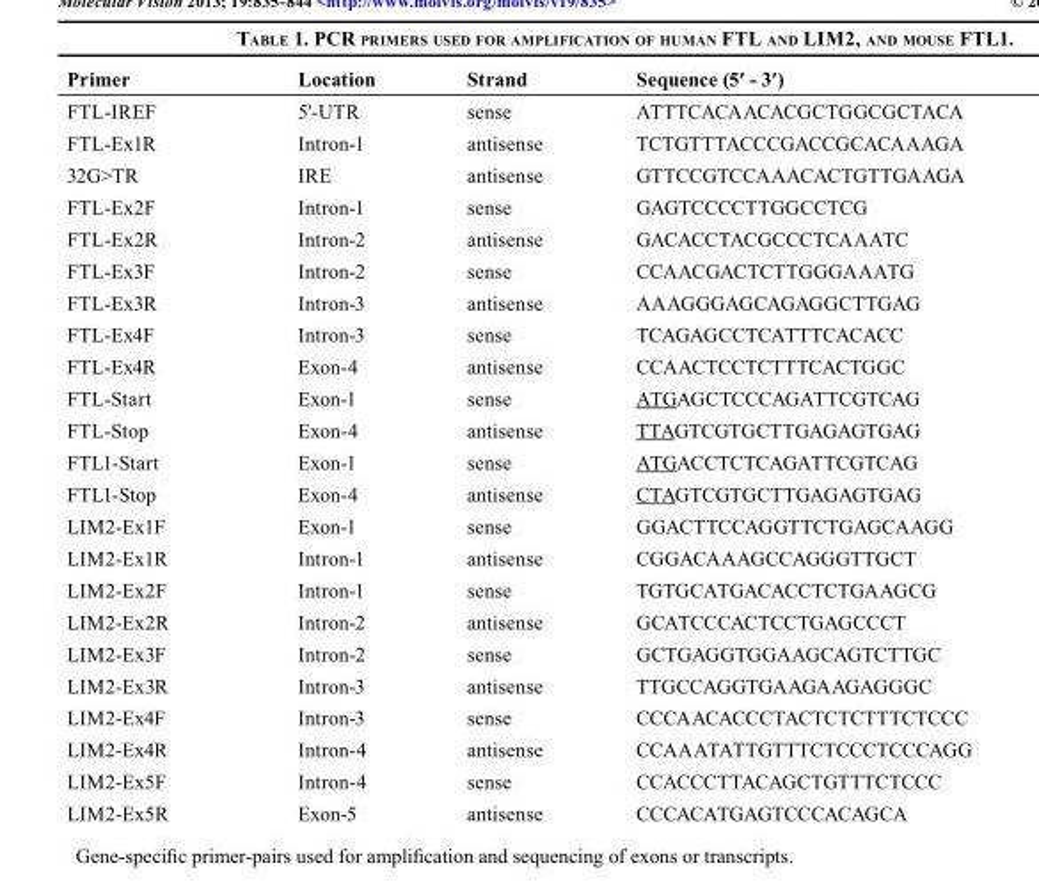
<table><thead><tr><td>Primer</td><td>Location</td><td>Strand</td><td>Sequence (5′ - 3′)</td></tr></thead><tbody><tr><td>FTL-IREF</td><td>5′-UTR</td><td>sense</td><td>ATTTCACAACACGCTGGCGCTACA</td></tr><tr><td>FTL-Ex1R</td><td>Intron-1</td><td>antisense</td><td>TCTGTTTACCCGACCGCACAAAGA</td></tr><tr><td>32G&gt;TR</td><td>IRE</td><td>antisense</td><td>GTTCCGTCCAAACACTGTTGAAGA</td></tr><tr><td>FTL-Ex2F</td><td>Intron-1</td><td>sense</td><td>GAGTCCCCTTGGCCTCG</td></tr><tr><td>FTL-Ex2R</td><td>Intron-2</td><td>antisense</td><td>GACACCTACGCCCTCAAATC</td></tr><tr><td>FTL-Ex3F</td><td>Intron-2</td><td>sense</td><td>CCAACGACTCTTGGGAAATG</td></tr><tr><td>FTL-Ex3R</td><td>Intron-3</td><td>antisense</td><td>AAAGGGAGCAGAGGCTTGAG</td></tr><tr><td>FTL-Ex4F</td><td>Intron-3</td><td>sense</td><td>TCAGAGCCTCATTTCACACC</td></tr><tr><td>FTL-Ex4R</td><td>Exon-4</td><td>antisense</td><td>CCAACTCCTCTTTCACTGGC</td></tr><tr><td>FTL-Start</td><td>Exon-1</td><td>sense</td><td>ATGAGCTCCCAGATTCGTCAG</td></tr><tr><td>FTL-Stop</td><td>Exon-4</td><td>antisense</td><td>TTAGTCGTGCTTGAGAGTGAG</td></tr><tr><td>FTL1-Start</td><td>Exon-1</td><td>sense</td><td>ATGACCTCTCAGATTCGTCAG</td></tr><tr><td>FTL1-Stop</td><td>Exon-4</td><td>antisense</td><td>CTAGTCGTGCTTGAGAGTGAG</td></tr><tr><td>LIM2-Ex1F</td><td>Exon-1</td><td>sense</td><td>GGACTTCCAGGTTCTGAGCAAGG</td></tr><tr><td>LIM2-Ex1R</td><td>Intron-1</td><td>antisense</td><td>CGGACAAAGCCAGGGTTGCT</td></tr><tr><td>LIM2-Ex2F</td><td>Intron-1</td><td>sense</td><td>TGTGCATGACACCTCTGAAGCG</td></tr><tr><td>LIM2-Ex2R</td><td>Intron-2</td><td>antisense</td><td>GCATCCCACTCCTGAGCCCT</td></tr><tr><td>LIM2-Ex3F</td><td>Intron-2</td><td>sense</td><td>GCTGAGGTGGAAGCAGTCTTGC</td></tr><tr><td>LIM2-Ex3R</td><td>Intron-3</td><td>antisense</td><td>TTGCCAGGTGAAGAAGAGGGC</td></tr><tr><td>LIM2-Ex4F</td><td>Intron-3</td><td>sense</td><td>CCCAACACCCTACTCTCTTTCTCCC</td></tr><tr><td>LIM2-Ex4R</td><td>Intron-4</td><td>antisense</td><td>CCAAATATTGTTTCTCCCTCCCAGG</td></tr><tr><td>LIM2-Ex5F</td><td>Intron-4</td><td>sense</td><td>CCACCCTTACAGCTGTTTCTCCC</td></tr><tr><td>LIM2-Ex5R</td><td>Exon-5</td><td>antisense</td><td>CCCACATGAGTCCCACAGCA</td></tr></tbody></table>